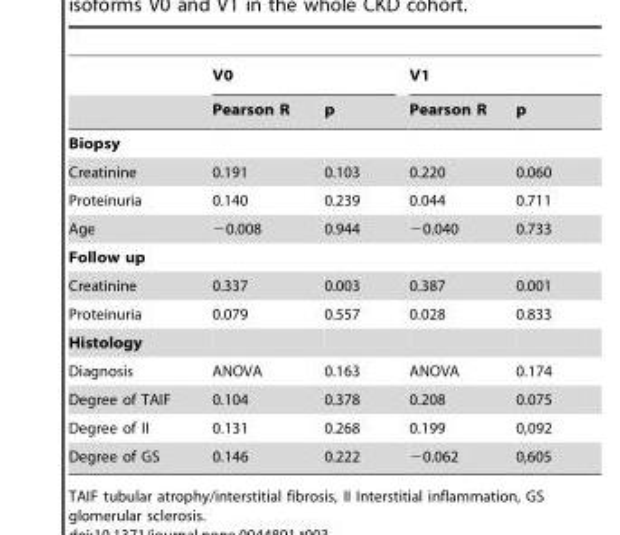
<table><thead><tr><td rowspan="2"></td><td colspan="2">V0</td><td colspan="2">V1</td></tr><tr><td>Pearson R</td><td>p</td><td>Pearson R</td><td>p</td></tr></thead><tbody><tr><td colspan="5">Biopsy</td></tr><tr><td>Creatinine</td><td>0.191</td><td>0.103</td><td>0.220</td><td>0.060</td></tr><tr><td>Proteinuria</td><td>0.140</td><td>0.239</td><td>0.044</td><td>0.711</td></tr><tr><td>Age</td><td>−0.008</td><td>0.944</td><td>−0.040</td><td>0.733</td></tr><tr><td colspan="5">Follow up</td></tr><tr><td>Creatinine</td><td>0.337</td><td>0.003</td><td>0.387</td><td>0.001</td></tr><tr><td>Proteinuria</td><td>0.079</td><td>0.557</td><td>0.028</td><td>0.833</td></tr><tr><td colspan="5">Histology</td></tr><tr><td>Diagnosis</td><td>ANOVA</td><td>0.163</td><td>ANOVA</td><td>0.174</td></tr><tr><td>Degree of TAIF</td><td>0.104</td><td>0.378</td><td>0.208</td><td>0.075</td></tr><tr><td>Degree of II</td><td>0.131</td><td>0.268</td><td>0.199</td><td>0,092</td></tr><tr><td>Degree of GS</td><td>0.146</td><td>0.222</td><td>−0.062</td><td>0,605</td></tr></tbody></table>